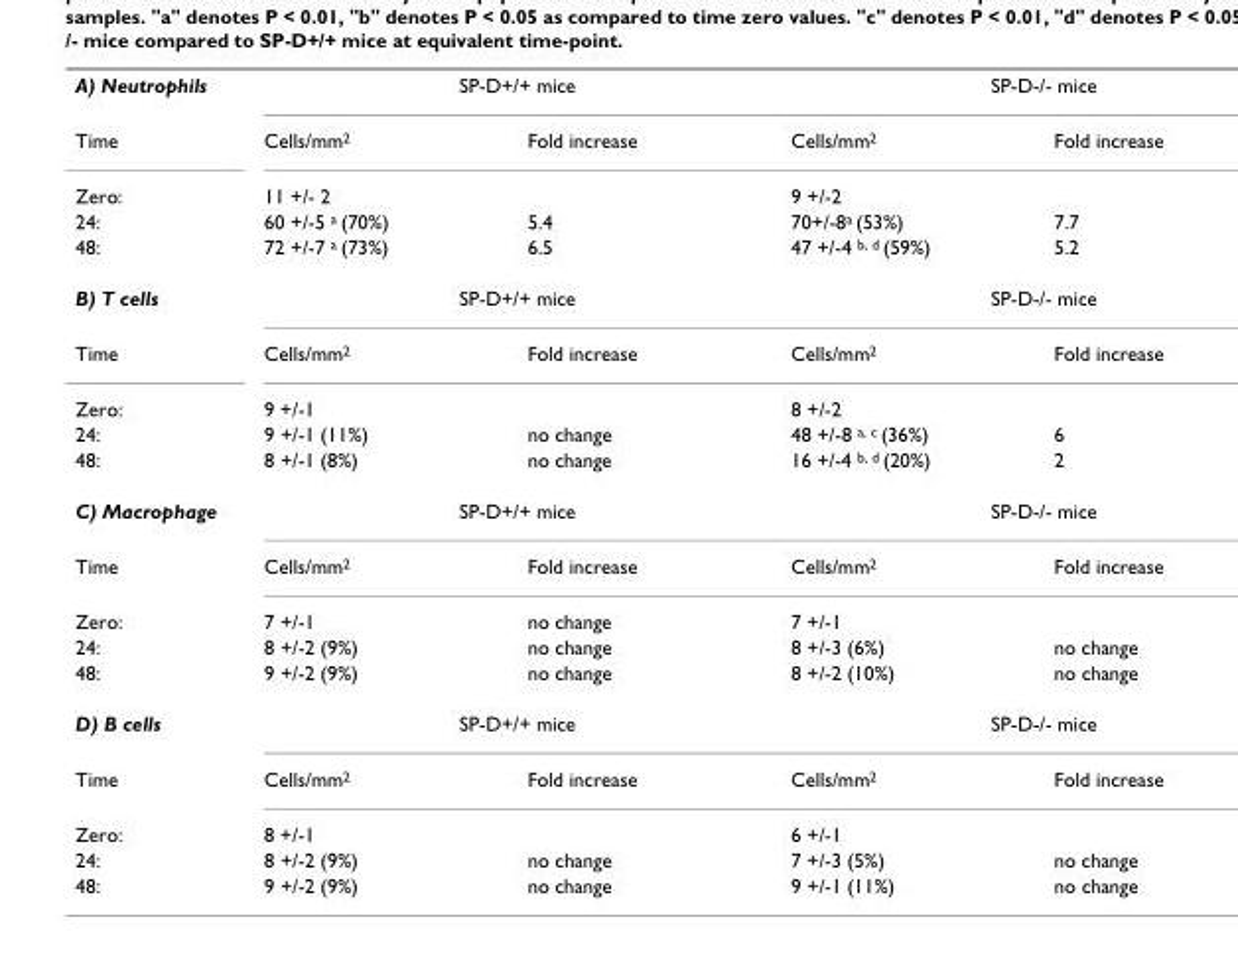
<table><tbody><tr><td>A) Neutrophils</td><td colspan="2">SP-D+/+ mice</td><td colspan="2">SP-D-/- mice</td></tr><tr><td>Time</td><td>Cells/mm<sup>2</sup></td><td>Fold increase</td><td>Cells/mm<sup>2</sup></td><td>Fold increase</td></tr><tr><td>Zero:</td><td>11 +/- 2</td><td></td><td>9 +/-2</td><td></td></tr><tr><td>24:</td><td>60 +/-5 <sup>a</sup> (70%)</td><td>5.4</td><td>70+/-8<sup>a</sup> (53%)</td><td>7.7</td></tr><tr><td>48:</td><td>72 +/-7 <sup>a</sup> (73%)</td><td>6.5</td><td>47 +/-4 <sup>b, d</sup> (59%)</td><td>5.2</td></tr><tr><td>B) T cells</td><td colspan="2">SP-D+/+ mice</td><td colspan="2">SP-D-/- mice</td></tr><tr><td>Time</td><td>Cells/mm<sup>2</sup></td><td>Fold increase</td><td>Cells/mm<sup>2</sup></td><td>Fold increase</td></tr><tr><td>Zero:</td><td>9 +/-1</td><td></td><td>8 +/-2</td><td></td></tr><tr><td>24:</td><td>9 +/-1 (11%)</td><td>no change</td><td>48 +/-8 <sup>a, c</sup> (36%)</td><td>6</td></tr><tr><td>48:</td><td>8 +/-1 (8%)</td><td>no change</td><td>16 +/-4 <sup>b, d</sup> (20%)</td><td>2</td></tr><tr><td>C) Macrophage</td><td colspan="2">SP-D+/+ mice</td><td colspan="2">SP-D-/- mice</td></tr><tr><td>Time</td><td>Cells/mm<sup>2</sup></td><td>Fold increase</td><td>Cells/mm<sup>2</sup></td><td>Fold increase</td></tr><tr><td>Zero:</td><td>7 +/-1</td><td>no change</td><td>7 +/-1</td><td></td></tr><tr><td>24:</td><td>8 +/-2 (9%)</td><td>no change</td><td>8 +/-3 (6%)</td><td>no change</td></tr><tr><td>48:</td><td>9 +/-2 (9%)</td><td>no change</td><td>8 +/-2 (10%)</td><td>no change</td></tr><tr><td>D) B cells</td><td colspan="2">SP-D+/+ mice</td><td colspan="2">SP-D-/- mice</td></tr><tr><td>Time</td><td>Cells/mm<sup>2</sup></td><td>Fold increase</td><td>Cells/mm<sup>2</sup></td><td>Fold increase</td></tr><tr><td>Zero:</td><td>8 +/-1</td><td></td><td>6 +/-1</td><td></td></tr><tr><td>24:</td><td>8 +/-2 (9%)</td><td>no change</td><td>7 +/-3 (5%)</td><td>no change</td></tr><tr><td>48:</td><td>9 +/-2 (9%)</td><td>no change</td><td>9 +/-1 (11%)</td><td>no change</td></tr></tbody></table>